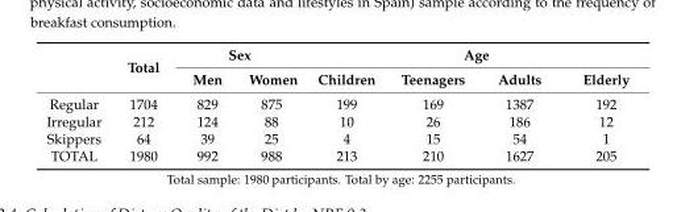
<table><thead><tr><td rowspan="2"></td><td rowspan="2">Total</td><td colspan="2">Sex</td><td colspan="4">Age</td></tr><tr><td>Men</td><td>Women</td><td>Children</td><td>Teenagers</td><td>Adults</td><td>Elderly</td></tr></thead><tbody><tr><td>Regular</td><td>1704</td><td>829</td><td>875</td><td>199</td><td>169</td><td>1387</td><td>192</td></tr><tr><td>Irregular</td><td>212</td><td>124</td><td>88</td><td>10</td><td>26</td><td>186</td><td>12</td></tr><tr><td>Skippers</td><td>64</td><td>39</td><td>25</td><td>4</td><td>15</td><td>54</td><td>1</td></tr><tr><td>TOTAL</td><td>1980</td><td>992</td><td>988</td><td>213</td><td>210</td><td>1627</td><td>205</td></tr></tbody></table>